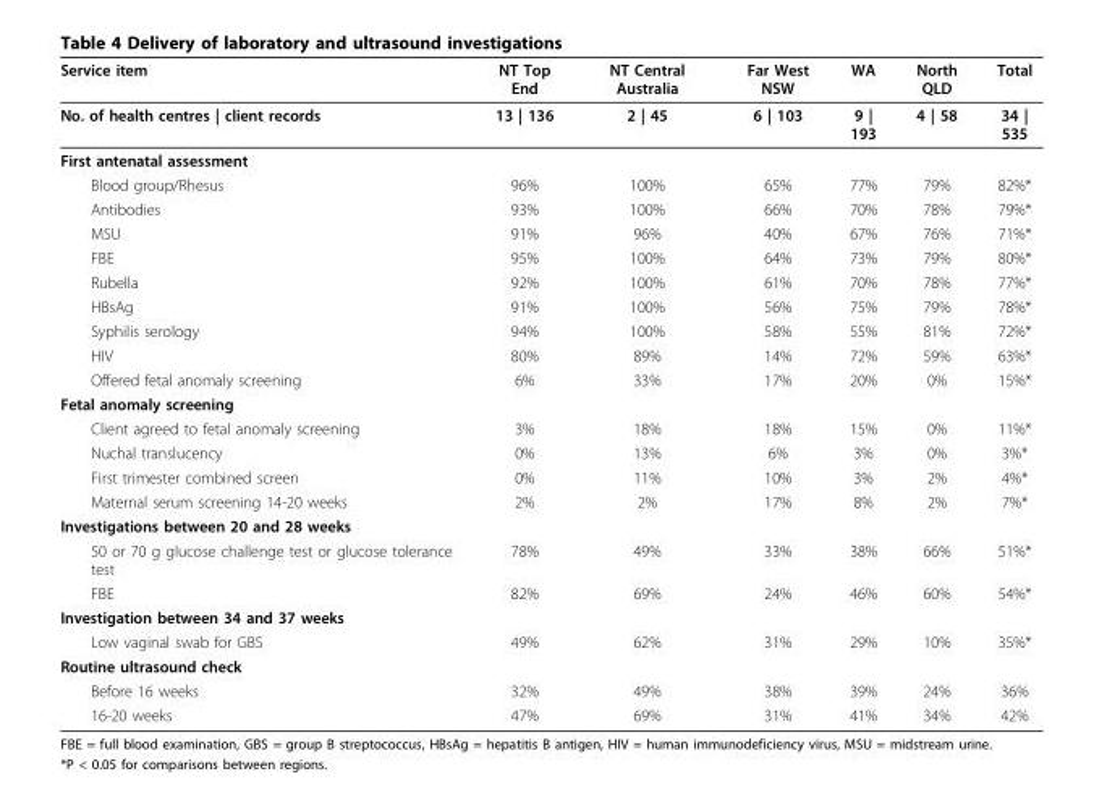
<table><thead><tr><td>Service item</td><td>NT Top End</td><td>NT Central Australia</td><td>Far West NSW</td><td>WA</td><td>North QLD</td><td>Total</td></tr></thead><tbody><tr><td>No. of health centres | client records</td><td>13 | 136</td><td>2 | 45</td><td>6 | 103</td><td>9 | 193</td><td>4 | 58</td><td>34 | 535</td></tr><tr><td colspan="7">First antenatal assessment</td></tr><tr><td>Blood group/Rhesus</td><td>96%</td><td>100%</td><td>65%</td><td>77%</td><td>79%</td><td>82%*</td></tr><tr><td>Antibodies</td><td>93%</td><td>100%</td><td>66%</td><td>70%</td><td>78%</td><td>79%*</td></tr><tr><td>MSU</td><td>91%</td><td>96%</td><td>40%</td><td>67%</td><td>76%</td><td>71%*</td></tr><tr><td>FBE</td><td>95%</td><td>100%</td><td>64%</td><td>73%</td><td>79%</td><td>80%*</td></tr><tr><td>Rubella</td><td>92%</td><td>100%</td><td>61%</td><td>70%</td><td>78%</td><td>77%*</td></tr><tr><td>HBsAg</td><td>91%</td><td>100%</td><td>56%</td><td>75%</td><td>79%</td><td>78%*</td></tr><tr><td>Syphilis serology</td><td>94%</td><td>100%</td><td>58%</td><td>55%</td><td>81%</td><td>72%*</td></tr><tr><td>HIV</td><td>80%</td><td>89%</td><td>14%</td><td>72%</td><td>59%</td><td>63%*</td></tr><tr><td>Offered fetal anomaly screening</td><td>6%</td><td>33%</td><td>17%</td><td>20%</td><td>0%</td><td>15%*</td></tr><tr><td colspan="7">Fetal anomaly screening</td></tr><tr><td>Client agreed to fetal anomaly screening</td><td>3%</td><td>18%</td><td>18%</td><td>15%</td><td>0%</td><td>11%*</td></tr><tr><td>Nuchal translucency</td><td>0%</td><td>13%</td><td>6%</td><td>3%</td><td>0%</td><td>3%*</td></tr><tr><td>First trimester combined screen</td><td>0%</td><td>11%</td><td>10%</td><td>3%</td><td>2%</td><td>4%*</td></tr><tr><td>Maternal serum screening 14-20 weeks</td><td>2%</td><td>2%</td><td>17%</td><td>8%</td><td>2%</td><td>7%*</td></tr><tr><td colspan="7">Investigations between 20 and 28 weeks</td></tr><tr><td>50 or 70 g glucose challenge test or glucose tolerance test</td><td>78%</td><td>49%</td><td>33%</td><td>38%</td><td>66%</td><td>51%*</td></tr><tr><td>FBE</td><td>82%</td><td>69%</td><td>24%</td><td>46%</td><td>60%</td><td>54%*</td></tr><tr><td colspan="7">Investigation between 34 and 37 weeks</td></tr><tr><td>Low vaginal swab for GBS</td><td>49%</td><td>62%</td><td>31%</td><td>29%</td><td>10%</td><td>35%*</td></tr><tr><td colspan="7">Routine ultrasound check</td></tr><tr><td>Before 16 weeks</td><td>32%</td><td>49%</td><td>38%</td><td>39%</td><td>24%</td><td>36%</td></tr><tr><td>16-20 weeks</td><td>47%</td><td>69%</td><td>31%</td><td>41%</td><td>34%</td><td>42%</td></tr></tbody></table>